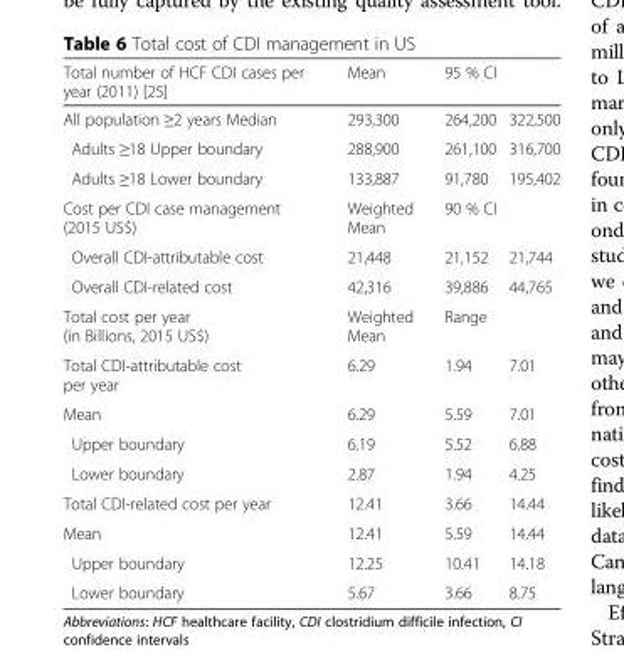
<table><thead><tr><td rowspan="2">Total number of HCF CDI cases per year (2011) [25] All population ≥2 years Median</td><td rowspan="2">Mean 293,300</td><td colspan="2">95 % CI</td></tr><tr><td>264,200</td><td>322,500</td></tr></thead><tbody><tr><td>Adults ≥18 Upper boundary</td><td>288,900</td><td>261,100</td><td>316,700</td></tr><tr><td>Adults ≥18 Lower boundary</td><td>133,887</td><td>91,780</td><td>195,402</td></tr><tr><td>Cost per CDI case management (2015 US$)</td><td>Weighted Mean</td><td colspan="2">90 % CI</td></tr><tr><td>Overall CDI-attributable cost</td><td>21,448</td><td>21,152</td><td>21,744</td></tr><tr><td>Overall CDI-related cost</td><td>42,316</td><td>39,886</td><td>44,765</td></tr><tr><td>Total cost per year (in Billions, 2015 US$)</td><td>Weighted Mean</td><td colspan="2">Range</td></tr><tr><td>Total CDI-attributable cost per year</td><td>6.29</td><td>1.94</td><td>7.01</td></tr><tr><td>Mean</td><td>6.29</td><td>5.59</td><td>7.01</td></tr><tr><td>Upper boundary</td><td>6.19</td><td>5.52</td><td>6.88</td></tr><tr><td>Lower boundary</td><td>2.87</td><td>1.94</td><td>4.25</td></tr><tr><td>Total CDI-related cost per year</td><td>12.41</td><td>3.66</td><td>14.44</td></tr><tr><td>Mean</td><td>12.41</td><td>5.59</td><td>14.44</td></tr><tr><td>Upper boundary</td><td>12.25</td><td>10.41</td><td>14.18</td></tr><tr><td>Lower boundary</td><td>5.67</td><td>3.66</td><td>8.75</td></tr></tbody></table>